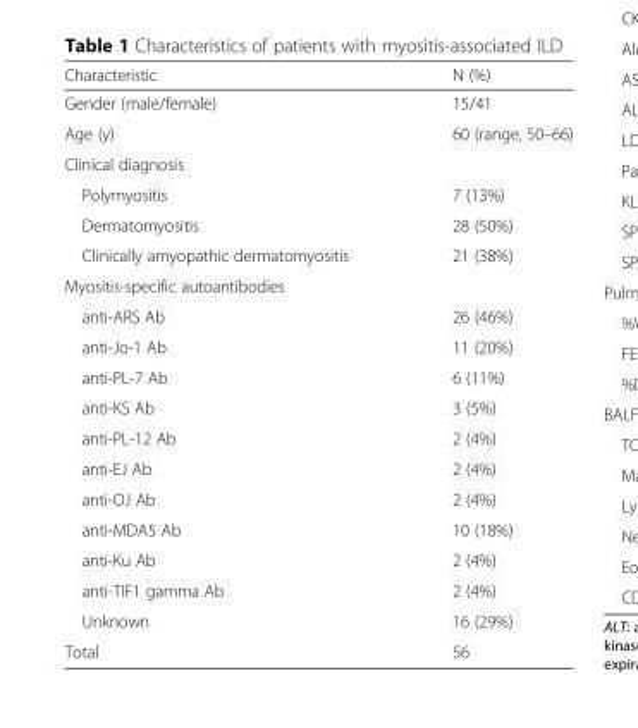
<table><thead><tr><td>Characteristic</td><td>N (%)</td></tr></thead><tbody><tr><td>Gender (male/female)</td><td>15/41</td></tr><tr><td>Age (y)</td><td>60 (range, 50–66)</td></tr><tr><td colspan="2">Clinical diagnosis</td></tr><tr><td>Polymyositis</td><td>7 (13%)</td></tr><tr><td>Dermatomyositis</td><td>28 (50%)</td></tr><tr><td>Clinically amyopathic dermatomyositis</td><td>21 (38%)</td></tr><tr><td colspan="2">Myositis-specific autoantibodies</td></tr><tr><td>anti-ARS Ab</td><td>26 (46%)</td></tr><tr><td>anti-Jo-1 Ab</td><td>11 (20%)</td></tr><tr><td>anti-PL-7 Ab</td><td>6 (11%)</td></tr><tr><td>anti-KS Ab</td><td>3 (5%)</td></tr><tr><td>anti-PL-12 Ab</td><td>2 (4%)</td></tr><tr><td>anti-EJ Ab</td><td>2 (4%)</td></tr><tr><td>anti-OJ Ab</td><td>2 (4%)</td></tr><tr><td>anti-MDA5 Ab</td><td>10 (18%)</td></tr><tr><td>anti-Ku Ab</td><td>2 (4%)</td></tr><tr><td>anti-TIF1 gamma Ab</td><td>2 (4%)</td></tr><tr><td>Unknown</td><td>16 (29%)</td></tr><tr><td>Total</td><td>56</td></tr></tbody></table>